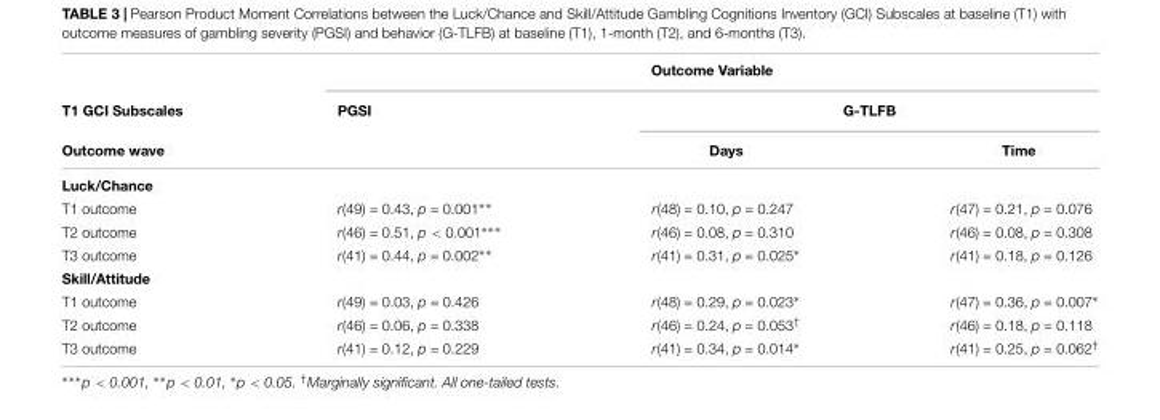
<table><thead><tr><td rowspan="3">T1 GCI Subscales Outcome wave</td><td colspan="3">Outcome Variable</td></tr><tr><td rowspan="2">PGSI</td><td colspan="2">G-TLFB</td></tr><tr><td>Days</td><td>Time</td></tr></thead><tbody><tr><td colspan="4">Luck/Chance</td></tr><tr><td>T1 outcome</td><td>r(49) = 0.43, p = 0.001∗∗</td><td>r(48) = 0.10, p = 0.247</td><td>r(47) = 0.21, p = 0.076</td></tr><tr><td>T2 outcome</td><td>r(46) = 0.51, p &lt; 0.001∗∗∗</td><td>r(46) = 0.08, p = 0.310</td><td>r(46) = 0.08, p = 0.308</td></tr><tr><td>T3 outcome</td><td>r(41) = 0.44, p = 0.002∗∗</td><td>r(41) = 0.31, p = 0.025∗</td><td>r(41) = 0.18, p = 0.126</td></tr><tr><td colspan="4">Skill/Attitude</td></tr><tr><td>T1 outcome</td><td>r(49) = 0.03, p = 0.426</td><td>r(48) = 0.29, p = 0.023∗</td><td>r(47) = 0.36, p = 0.007∗</td></tr><tr><td>T2 outcome</td><td>r(46) = 0.06, p = 0.338</td><td>r(46) = 0.24, p = 0.053<sup>†</sup></td><td>r(46) = 0.18, p = 0.118</td></tr><tr><td>T3 outcome</td><td>r(41) = 0.12, p = 0.229</td><td>r(41) = 0.34, p = 0.014∗</td><td>r(41) = 0.25, p = 0.062<sup>†</sup></td></tr></tbody></table>